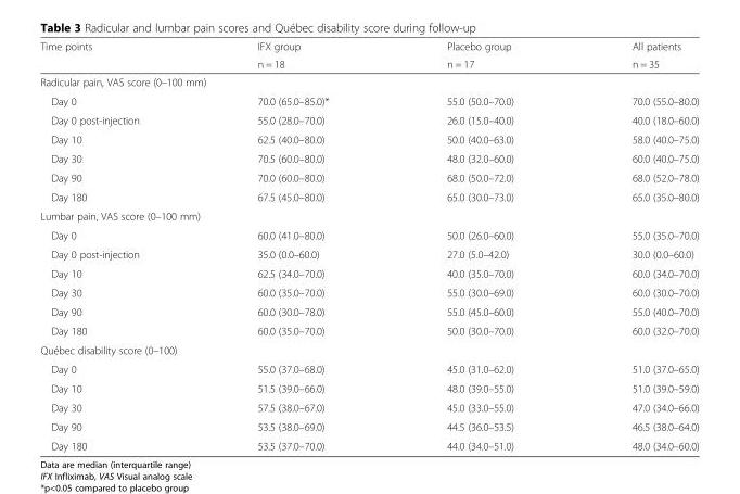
<table><thead><tr><td rowspan="2">Time points</td><td rowspan="2">IFX group n = 18</td><td rowspan="2">Placebo group n = 17</td><td rowspan="2">All patients n = 35</td></tr><tr></tr></thead><tbody><tr><td colspan="4">Radicular pain, VAS score (0–100 mm)</td></tr><tr><td>Day 0</td><td>70.0 (65.0–85.0)*</td><td>55.0 (50.0–70.0)</td><td>70.0 (55.0–80.0)</td></tr><tr><td>Day 0 post-injection</td><td>55.0 (28.0–70.0)</td><td>26.0 (15.0–40.0)</td><td>40.0 (18.0–60.0)</td></tr><tr><td>Day 10</td><td>62.5 (40.0–80.0)</td><td>50.0 (40.0–63.0)</td><td>58.0 (40.0–75.0)</td></tr><tr><td>Day 30</td><td>70.5 (60.0–80.0)</td><td>48.0 (32.0–60.0)</td><td>60.0 (40.0–75.0)</td></tr><tr><td>Day 90</td><td>70.0 (60.0–80.0)</td><td>68.0 (50.0–72.0)</td><td>68.0 (52.0–78.0)</td></tr><tr><td>Day 180</td><td>67.5 (45.0–80.0)</td><td>65.0 (30.0–73.0)</td><td>65.0 (35.0–80.0)</td></tr><tr><td colspan="4">Lumbar pain, VAS score (0–100 mm)</td></tr><tr><td>Day 0</td><td>60.0 (41.0–80.0)</td><td>50.0 (26.0–60.0)</td><td>55.0 (35.0–70.0)</td></tr><tr><td>Day 0 post-injection</td><td>35.0 (0.0–60.0)</td><td>27.0 (5.0–42.0)</td><td>30.0 (0.0–60.0)</td></tr><tr><td>Day 10</td><td>62.5 (34.0–70.0)</td><td>40.0 (35.0–70.0)</td><td>60.0 (34.0–70.0)</td></tr><tr><td>Day 30</td><td>60.0 (35.0–70.0)</td><td>55.0 (30.0–69.0)</td><td>60.0 (30.0–70.0)</td></tr><tr><td>Day 90</td><td>60.0 (30.0–78.0)</td><td>55.0 (45.0–60.0)</td><td>55.0 (40.0–70.0)</td></tr><tr><td>Day 180</td><td>60.0 (35.0–70.0)</td><td>50.0 (30.0–70.0)</td><td>60.0 (32.0–70.0)</td></tr><tr><td colspan="4">Québec disability score (0–100)</td></tr><tr><td>Day 0</td><td>55.0 (37.0–68.0)</td><td>45.0 (31.0–62.0)</td><td>51.0 (37.0–65.0)</td></tr><tr><td>Day 10</td><td>51.5 (39.0–66.0)</td><td>48.0 (39.0–55.0)</td><td>51.0 (39.0–59.0)</td></tr><tr><td>Day 30</td><td>57.5 (38.0–67.0)</td><td>45.0 (33.0–55.0)</td><td>47.0 (34.0–66.0)</td></tr><tr><td>Day 90</td><td>53.5 (38.0–69.0)</td><td>44.5 (36.0–53.5)</td><td>46.5 (38.0–64.0)</td></tr><tr><td>Day 180</td><td>53.5 (37.0–70.0)</td><td>44.0 (34.0–51.0)</td><td>48.0 (34.0–60.0)</td></tr></tbody></table>